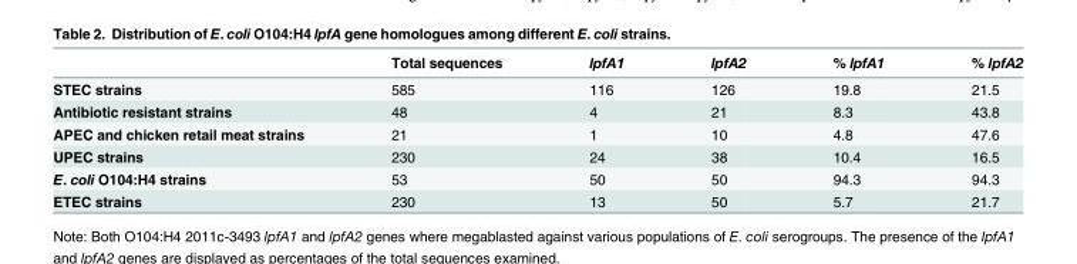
<table><thead><tr><td></td><td>Total sequences</td><td>lpfA1</td><td>lpfA2</td><td>% lpfA1</td><td>% lpfA2</td></tr></thead><tbody><tr><td>STEC strains</td><td>585</td><td>116</td><td>126</td><td>19.8</td><td>21.5</td></tr><tr><td>Antibiotic resistant strains</td><td>48</td><td>4</td><td>21</td><td>8.3</td><td>43.8</td></tr><tr><td>APEC and chicken retail meat strains</td><td>21</td><td>1</td><td>10</td><td>4.8</td><td>47.6</td></tr><tr><td>UPEC strains</td><td>230</td><td>24</td><td>38</td><td>10.4</td><td>16.5</td></tr><tr><td>E. coli O104:H4 strains</td><td>53</td><td>50</td><td>50</td><td>94.3</td><td>94.3</td></tr><tr><td>ETEC strains</td><td>230</td><td>13</td><td>50</td><td>5.7</td><td>21.7</td></tr></tbody></table>